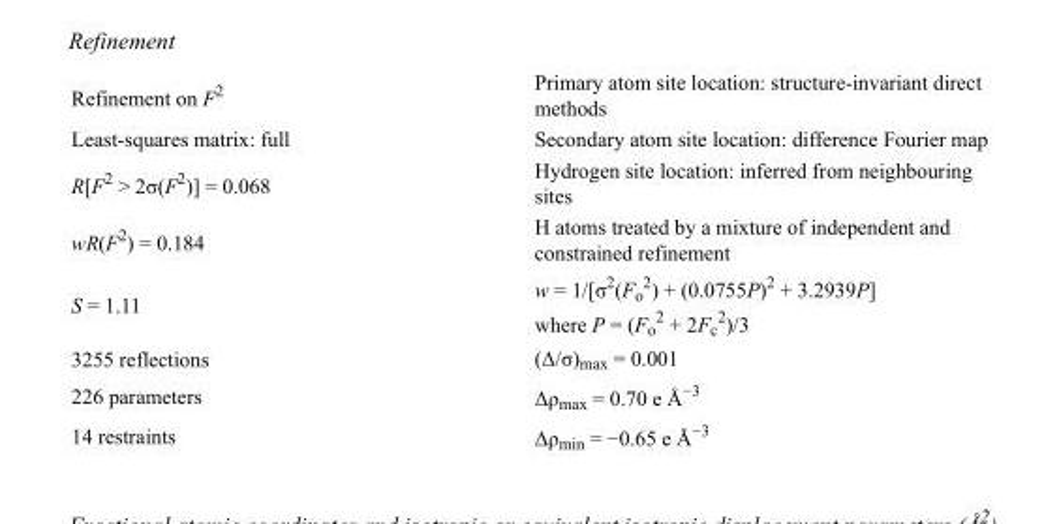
<table><tbody><tr><td>Refinement on F<sup>2</sup></td><td>Primary atom site location: structure-invariant direct methods</td></tr><tr><td>Least-squares matrix: full</td><td>Secondary atom site location: difference Fourier map</td></tr><tr><td>R[F<sup>2</sup> &gt; 2σ(F<sup>2</sup>)] = 0.068</td><td>Hydrogen site location: inferred from neighbouring sites</td></tr><tr><td>wR(F<sup>2</sup>) = 0.184</td><td>H atoms treated by a mixture of independent and constrained refinement</td></tr><tr><td>S = 1.11</td><td>w = 1/[σ<sup>2</sup>(F<sub>o</sub> <sup>2</sup>) + (0.0755P)<sup>2</sup> + 3.2939P] where P = (F<sub>o</sub> <sup>2</sup> + 2F<sub>c</sub> <sup>2</sup>)/3</td></tr><tr><td>3255 reflections</td><td>(Δ/σ)<sub>max</sub> = 0.001</td></tr><tr><td>226 parameters</td><td>Δρ<sub>max</sub> = 0.70 e Å<sup>−3</sup></td></tr><tr><td>14 restraints</td><td>Δρ<sub>min</sub> = −0.65 e Å<sup>−3</sup></td></tr></tbody></table>